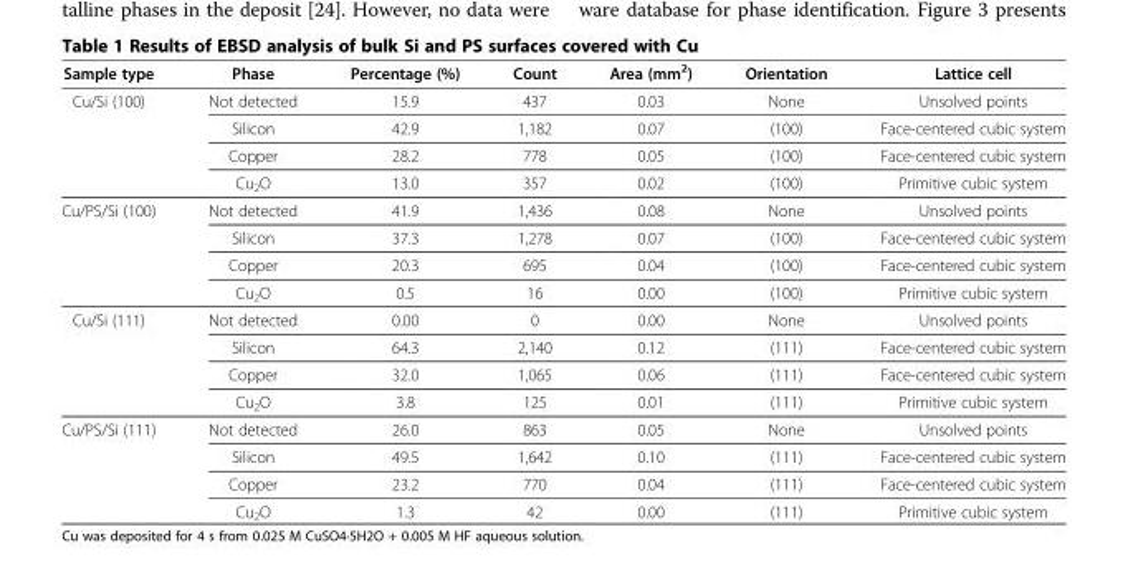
<table><thead><tr><td>Sample type</td><td>Phase</td><td>Percentage (%)</td><td>Count</td><td>Area (mm<sup>2</sup>)</td><td>Orientation</td><td>Lattice cell</td></tr></thead><tbody><tr><td rowspan="4">Cu/Si (100)</td><td>Not detected</td><td>15.9</td><td>437</td><td>0.03</td><td>None</td><td>Unsolved points</td></tr><tr><td>Silicon</td><td>42.9</td><td>1,182</td><td>0.07</td><td>(100)</td><td>Face-centered cubic system</td></tr><tr><td>Copper</td><td>28.2</td><td>778</td><td>0.05</td><td>(100)</td><td>Face-centered cubic system</td></tr><tr><td>Cu<sub>2</sub>O</td><td>13.0</td><td>357</td><td>0.02</td><td>(100)</td><td>Primitive cubic system</td></tr><tr><td rowspan="4">Cu/PS/Si (100)</td><td>Not detected</td><td>41.9</td><td>1,436</td><td>0.08</td><td>None</td><td>Unsolved points</td></tr><tr><td>Silicon</td><td>37.3</td><td>1,278</td><td>0.07</td><td>(100)</td><td>Face-centered cubic system</td></tr><tr><td>Copper</td><td>20.3</td><td>695</td><td>0.04</td><td>(100)</td><td>Face-centered cubic system</td></tr><tr><td>Cu<sub>2</sub>O</td><td>0.5</td><td>16</td><td>0.00</td><td>(100)</td><td>Primitive cubic system</td></tr><tr><td rowspan="4">Cu/Si (111)</td><td>Not detected</td><td>0.00</td><td>0</td><td>0.00</td><td>None</td><td>Unsolved points</td></tr><tr><td>Silicon</td><td>64.3</td><td>2,140</td><td>0.12</td><td>(111)</td><td>Face-centered cubic system</td></tr><tr><td>Copper</td><td>32.0</td><td>1,065</td><td>0.06</td><td>(111)</td><td>Face-centered cubic system</td></tr><tr><td>Cu<sub>2</sub>O</td><td>3.8</td><td>125</td><td>0.01</td><td>(111)</td><td>Primitive cubic system</td></tr><tr><td rowspan="4">Cu/PS/Si (111)</td><td>Not detected</td><td>26.0</td><td>863</td><td>0.05</td><td>None</td><td>Unsolved points</td></tr><tr><td>Silicon</td><td>49.5</td><td>1,642</td><td>0.10</td><td>(111)</td><td>Face-centered cubic system</td></tr><tr><td>Copper</td><td>23.2</td><td>770</td><td>0.04</td><td>(111)</td><td>Face-centered cubic system</td></tr><tr><td>Cu<sub>2</sub>O</td><td>1.3</td><td>42</td><td>0.00</td><td>(111)</td><td>Primitive cubic system</td></tr></tbody></table>